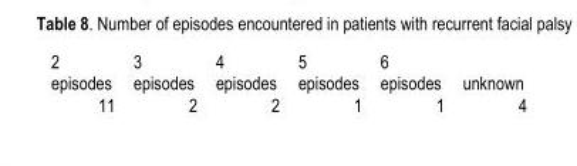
<table><tbody><tr><td>2 episodes</td><td>3 episodes</td><td>4 episodes</td><td>5 episodes</td><td>6 episodes</td><td>unknown</td></tr><tr><td>11</td><td>2</td><td>2</td><td>1</td><td>1</td><td>4</td></tr></tbody></table>